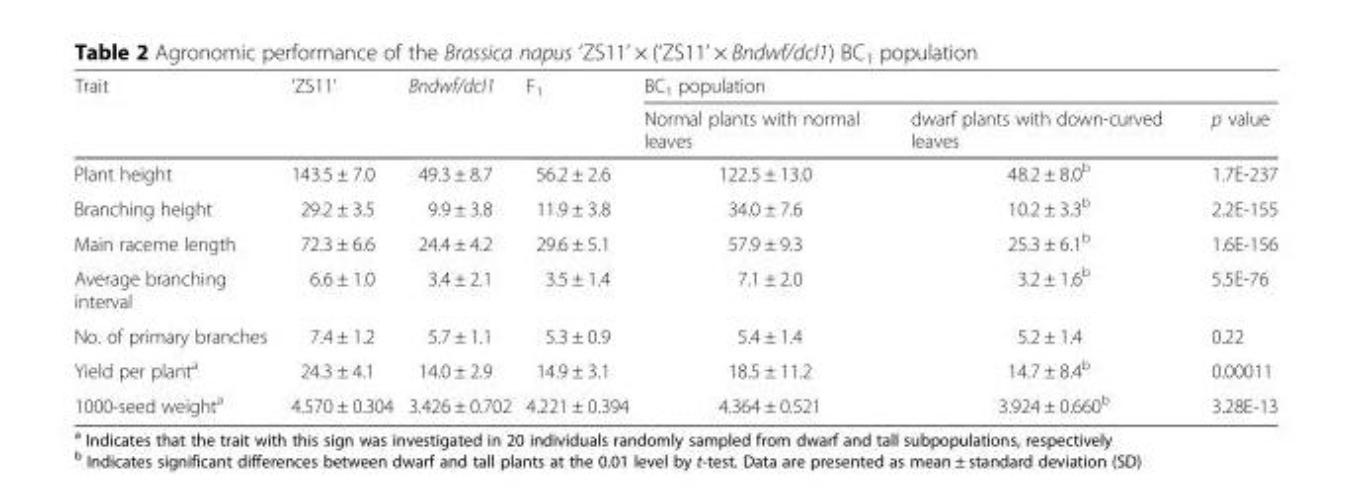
<table><thead><tr><td rowspan="2">Trait</td><td rowspan="2">‘ZS11’</td><td rowspan="2">Bndwf/dcl1</td><td rowspan="2">F<sub>1</sub></td><td colspan="3">BC<sub>1</sub> population</td></tr><tr><td>Normal plants with normal leaves</td><td>dwarf plants with down-curved leaves</td><td>p value</td></tr></thead><tbody><tr><td>Plant height</td><td>143.5 ± 7.0</td><td>49.3 ± 8.7</td><td>56.2 ± 2.6</td><td>122.5 ± 13.0</td><td>48.2 ± 8.0<sup>b</sup></td><td>1.7E-237</td></tr><tr><td>Branching height</td><td>29.2 ± 3.5</td><td>9.9 ± 3.8</td><td>11.9 ± 3.8</td><td>34.0 ± 7.6</td><td>10.2 ± 3.3<sup>b</sup></td><td>2.2E-155</td></tr><tr><td>Main raceme length</td><td>72.3 ± 6.6</td><td>24.4 ± 4.2</td><td>29.6 ± 5.1</td><td>57.9 ± 9.3</td><td>25.3 ± 6.1<sup>b</sup></td><td>1.6E-156</td></tr><tr><td>Average branching interval</td><td>6.6 ± 1.0</td><td>3.4 ± 2.1</td><td>3.5 ± 1.4</td><td>7.1 ± 2.0</td><td>3.2 ± 1.6<sup>b</sup></td><td>5.5E-76</td></tr><tr><td>No. of primary branches</td><td>7.4 ± 1.2</td><td>5.7 ± 1.1</td><td>5.3 ± 0.9</td><td>5.4 ± 1.4</td><td>5.2 ± 1.4</td><td>0.22</td></tr><tr><td>Yield per plant<sup>a</sup></td><td>24.3 ± 4.1</td><td>14.0 ± 2.9</td><td>14.9 ± 3.1</td><td>18.5 ± 11.2</td><td>14.7 ± 8.4<sup>b</sup></td><td>0.00011</td></tr><tr><td>1000-seed weight<sup>a</sup></td><td>4.570 ± 0.304</td><td>3.426 ± 0.702</td><td>4.221 ± 0.394</td><td>4.364 ± 0.521</td><td>3.924 ± 0.660<sup>b</sup></td><td>3.28E-13</td></tr></tbody></table>